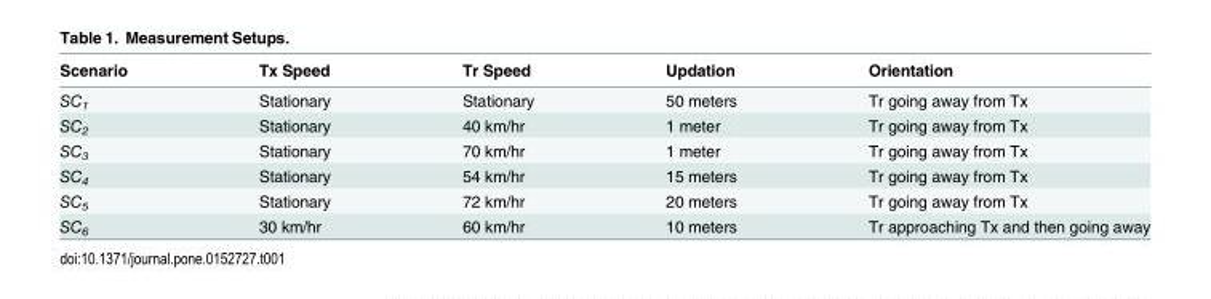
<table><thead><tr><td>Scenario</td><td>Tx Speed</td><td>Tr Speed</td><td>Updation</td><td>Orientation</td></tr></thead><tbody><tr><td>SC<sub>1</sub></td><td>Stationary</td><td>Stationary</td><td>50 meters</td><td>Tr going away from Tx</td></tr><tr><td>SC<sub>2</sub></td><td>Stationary</td><td>40 km/hr</td><td>1 meter</td><td>Tr going away from Tx</td></tr><tr><td>SC<sub>3</sub></td><td>Stationary</td><td>70 km/hr</td><td>1 meter</td><td>Tr going away from Tx</td></tr><tr><td>SC<sub>4</sub></td><td>Stationary</td><td>54 km/hr</td><td>15 meters</td><td>Tr going away from Tx</td></tr><tr><td>SC<sub>5</sub></td><td>Stationary</td><td>72 km/hr</td><td>20 meters</td><td>Tr going away from Tx</td></tr><tr><td>SC<sub>6</sub></td><td>30 km/hr</td><td>60 km/hr</td><td>10 meters</td><td>Tr approaching Tx and then going away</td></tr></tbody></table>